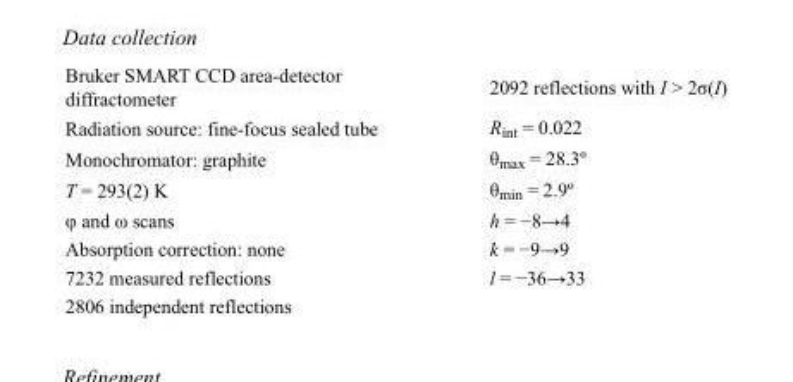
<table><tbody><tr><td>Bruker SMART CCD area-detector diffractometer</td><td>2092 reflections with I &gt; 2σ(I)</td></tr><tr><td>Radiation source: fine-focus sealed tube</td><td>R<sub>int</sub> = 0.022</td></tr><tr><td>Monochromator: graphite</td><td>θ<sub>max</sub> = 28.3º</td></tr><tr><td>T = 293(2) K</td><td>θ<sub>min</sub> = 2.9º</td></tr><tr><td>φ and ω scans</td><td>h = −8→4</td></tr><tr><td>Absorption correction: none</td><td>k = −9→9</td></tr><tr><td>7232 measured reflections</td><td>l = −36→33</td></tr><tr><td>2806 independent reflections</td><td></td></tr></tbody></table>